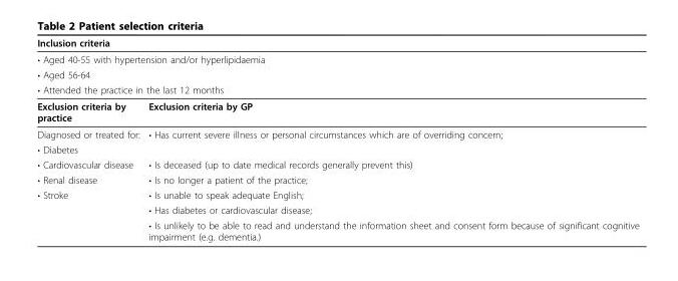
<table><thead><tr><td colspan="2">Inclusion criteria</td></tr></thead><tbody><tr><td colspan="2">• Aged 40-55 with hypertension and/or hyperlipidaemia</td></tr><tr><td colspan="2">• Aged 56-64</td></tr><tr><td colspan="2">• Attended the practice in the last 12 months</td></tr><tr><td>Exclusion criteria by practice</td><td>Exclusion criteria by GP</td></tr><tr><td>Diagnosed or treated for:</td><td>• Has current severe illness or personal circumstances which are of overriding concern;</td></tr><tr><td colspan="2">• Diabetes</td></tr><tr><td>• Cardiovascular disease</td><td>• Is deceased (up to date medical records generally prevent this)</td></tr><tr><td>• Renal disease</td><td>• Is no longer a patient of the practice;</td></tr><tr><td rowspan="3">• Stroke</td><td>• Is unable to speak adequate English;</td></tr><tr><td>• Has diabetes or cardiovascular disease;</td></tr><tr><td>• Is unlikely to be able to read and understand the information sheet and consent form because of significant cognitive impairment (e.g. dementia.)</td></tr></tbody></table>